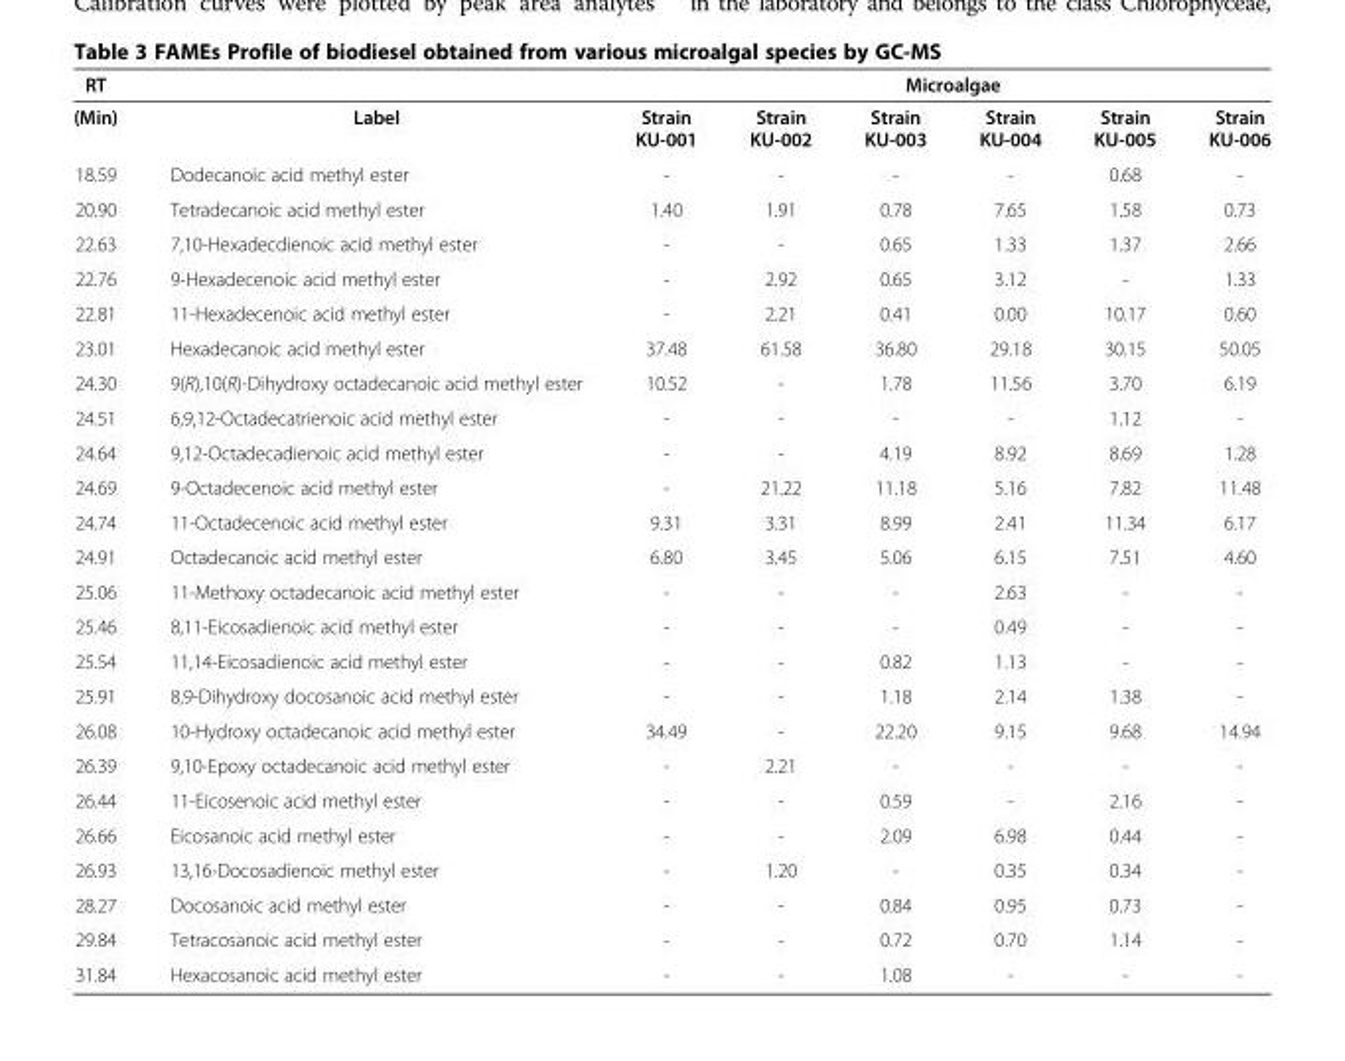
<table><thead><tr><td rowspan="2">RT (Min)</td><td rowspan="2">Label</td><td colspan="6">Microalgae</td></tr><tr><td>Strain KU-001</td><td>Strain KU-002</td><td>Strain KU-003</td><td>Strain KU-004</td><td>Strain KU-005</td><td>Strain KU-006</td></tr></thead><tbody><tr><td>18.59</td><td>Dodecanoic acid methyl ester</td><td>-</td><td>-</td><td>-</td><td>-</td><td>0.68</td><td>-</td></tr><tr><td>20.90</td><td>Tetradecanoic acid methyl ester</td><td>1.40</td><td>1.91</td><td>0.78</td><td>7.65</td><td>1.58</td><td>0.73</td></tr><tr><td>22.63</td><td>7,10-Hexadecdienoic acid methyl ester</td><td>-</td><td>-</td><td>0.65</td><td>1.33</td><td>1.37</td><td>2.66</td></tr><tr><td>22.76</td><td>9-Hexadecenoic acid methyl ester</td><td>-</td><td>2.92</td><td>0.65</td><td>3.12</td><td>-</td><td>1.33</td></tr><tr><td>22.81</td><td>11-Hexadecenoic acid methyl ester</td><td>-</td><td>2.21</td><td>0.41</td><td>0.00</td><td>10.17</td><td>0.60</td></tr><tr><td>23.01</td><td>Hexadecanoic acid methyl ester</td><td>37.48</td><td>61.58</td><td>36.80</td><td>29.18</td><td>30.15</td><td>50.05</td></tr><tr><td>24.30</td><td>9(R),10(R)-Dihydroxy octadecanoic acid methyl ester</td><td>10.52</td><td>-</td><td>1.78</td><td>11.56</td><td>3.70</td><td>6.19</td></tr><tr><td>24.51</td><td>6,9,12-Octadecatrienoic acid methyl ester</td><td>-</td><td>-</td><td>-</td><td>-</td><td>1.12</td><td>-</td></tr><tr><td>24.64</td><td>9,12-Octadecadienoic acid methyl ester</td><td>-</td><td>-</td><td>4.19</td><td>8.92</td><td>8.69</td><td>1.28</td></tr><tr><td>24.69</td><td>9-Octadecenoic acid methyl ester</td><td>-</td><td>21.22</td><td>11.18</td><td>5.16</td><td>7.82</td><td>11.48</td></tr><tr><td>24.74</td><td>11-Octadecenoic acid methyl ester</td><td>9.31</td><td>3.31</td><td>8.99</td><td>2.41</td><td>11.34</td><td>6.17</td></tr><tr><td>24.91</td><td>Octadecanoic acid methyl ester</td><td>6.80</td><td>3.45</td><td>5.06</td><td>6.15</td><td>7.51</td><td>4.60</td></tr><tr><td>25.06</td><td>11-Methoxy octadecanoic acid methyl ester</td><td>-</td><td>-</td><td>-</td><td>2.63</td><td>-</td><td>-</td></tr><tr><td>25.46</td><td>8,11-Eicosadienoic acid methyl ester</td><td>-</td><td>-</td><td>-</td><td>0.49</td><td>-</td><td>-</td></tr><tr><td>25.54</td><td>11,14-Eicosadienoic acid methyl ester</td><td>-</td><td>-</td><td>0.82</td><td>1.13</td><td>-</td><td>-</td></tr><tr><td>25.91</td><td>8,9-Dihydroxy docosanoic acid methyl ester</td><td>-</td><td>-</td><td>1.18</td><td>2.14</td><td>1.38</td><td>-</td></tr><tr><td>26.08</td><td>10-Hydroxy octadecanoic acid methyl ester</td><td>34.49</td><td>-</td><td>22.20</td><td>9.15</td><td>9.68</td><td>14.94</td></tr><tr><td>26.39</td><td>9,10-Epoxy octadecanoic acid methyl ester</td><td>-</td><td>2.21</td><td>-</td><td>-</td><td>-</td><td>-</td></tr><tr><td>26.44</td><td>11-Eicosenoic acid methyl ester</td><td>-</td><td>-</td><td>0.59</td><td>-</td><td>2.16</td><td>-</td></tr><tr><td>26.66</td><td>Eicosanoic acid methyl ester</td><td>-</td><td>-</td><td>2.09</td><td>6.98</td><td>0.44</td><td>-</td></tr><tr><td>26.93</td><td>13,16-Docosadienoic methyl ester</td><td>-</td><td>1.20</td><td>-</td><td>0.35</td><td>0.34</td><td>-</td></tr><tr><td>28.27</td><td>Docosanoic acid methyl ester</td><td>-</td><td>-</td><td>0.84</td><td>0.95</td><td>0.73</td><td>-</td></tr><tr><td>29.84</td><td>Tetracosanoic acid methyl ester</td><td>-</td><td>-</td><td>0.72</td><td>0.70</td><td>1.14</td><td>-</td></tr><tr><td>31.84</td><td>Hexacosanoic acid methyl ester</td><td>-</td><td>-</td><td>1.08</td><td>-</td><td>-</td><td>-</td></tr></tbody></table>